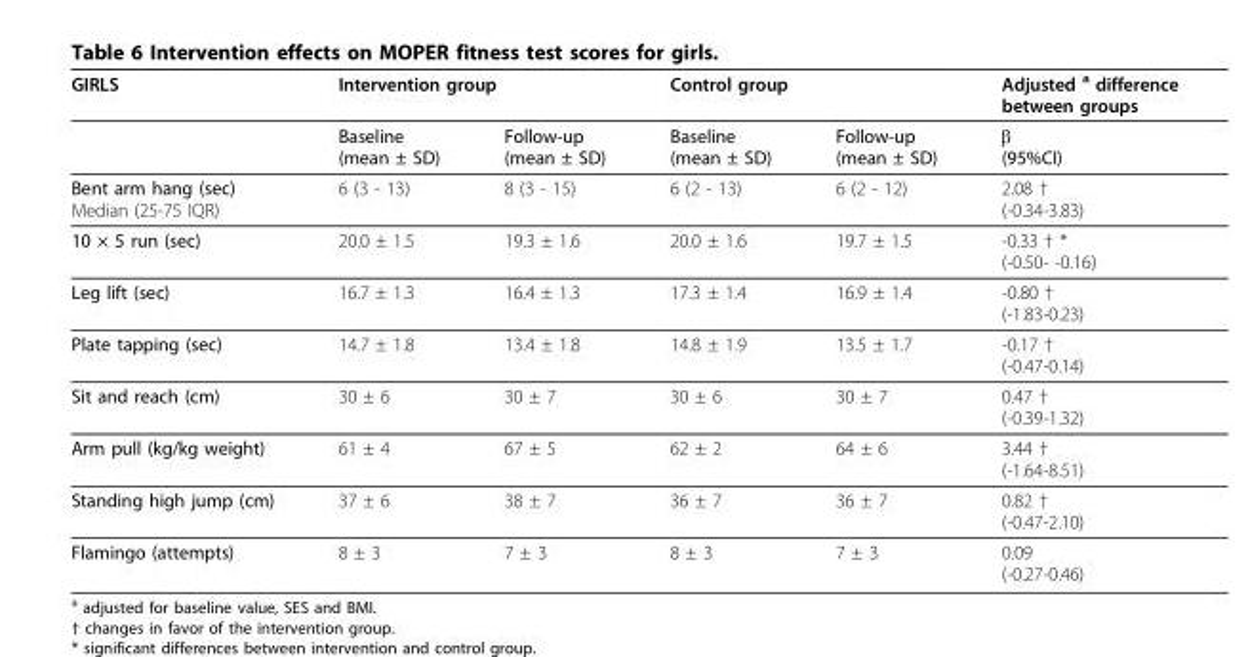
<table><thead><tr><td rowspan="2">GIRLS</td><td colspan="2">Intervention group</td><td colspan="2">Control group</td><td rowspan="2">Adjusted <sup>a</sup> difference between groups β (95%CI)</td></tr><tr><td>Baseline (mean ± SD)</td><td>Follow-up (mean ± SD)</td><td>Baseline (mean ± SD)</td><td>Follow-up (mean ± SD)</td></tr></thead><tbody><tr><td>Bent arm hang (sec) Median (25-75 IQR)</td><td>6 (3 - 13)</td><td>8 (3 - 15)</td><td>6 (2 - 13)</td><td>6 (2 - 12)</td><td>2.08 † (-0.34-3.83)</td></tr><tr><td>10 × 5 run (sec)</td><td>20.0 ± 1.5</td><td>19.3 ± 1.6</td><td>20.0 ± 1.6</td><td>19.7 ± 1.5</td><td>-0.33 † * (-0.50- -0.16)</td></tr><tr><td>Leg lift (sec)</td><td>16.7 ± 1.3</td><td>16.4 ± 1.3</td><td>17.3 ± 1.4</td><td>16.9 ± 1.4</td><td>-0.80 † (-1.83-0.23)</td></tr><tr><td>Plate tapping (sec)</td><td>14.7 ± 1.8</td><td>13.4 ± 1.8</td><td>14.8 ± 1.9</td><td>13.5 ± 1.7</td><td>-0.17 † (-0.47-0.14)</td></tr><tr><td>Sit and reach (cm)</td><td>30 ± 6</td><td>30 ± 7</td><td>30 ± 6</td><td>30 ± 7</td><td>0.47 † (-0.39-1.32)</td></tr><tr><td>Arm pull (kg/kg weight)</td><td>61 ± 4</td><td>67 ± 5</td><td>62 ± 2</td><td>64 ± 6</td><td>3.44 † (-1.64-8.51)</td></tr><tr><td>Standing high jump (cm)</td><td>37 ± 6</td><td>38 ± 7</td><td>36 ± 7</td><td>36 ± 7</td><td>0.82 † (-0.47-2.10)</td></tr><tr><td>Flamingo (attempts)</td><td>8 ± 3</td><td>7 ± 3</td><td>8 ± 3</td><td>7 ± 3</td><td>0.09 (-0.27-0.46)</td></tr></tbody></table>